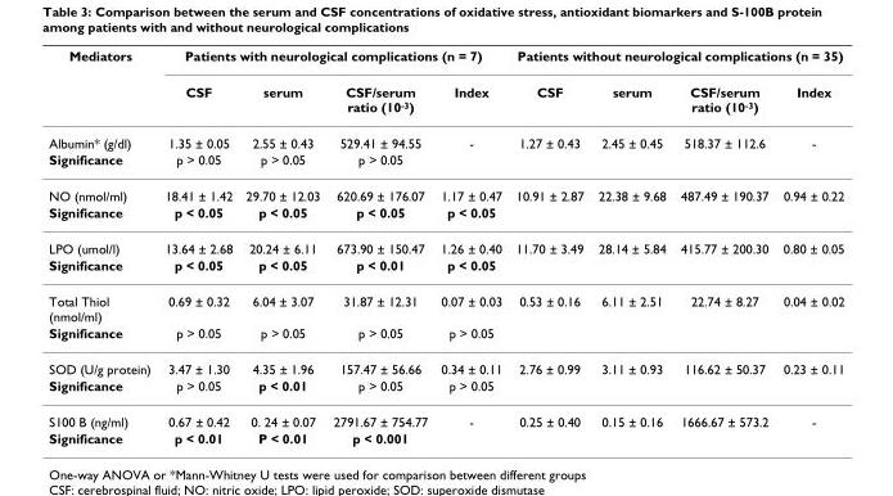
<table><thead><tr><td rowspan="2">Mediators</td><td colspan="4">Patients with neurological complications (n = 7)</td><td colspan="4">Patients without neurological complications (n = 35)</td></tr><tr><td>CSF</td><td>serum</td><td>CSF/serum ratio (10<sup>-3</sup>)</td><td>Index</td><td>CSF</td><td>serum</td><td>CSF/serum ratio (10<sup>-3</sup>)</td><td>Index</td></tr></thead><tbody><tr><td>Albumin* (g/dl)</td><td>1.35 ± 0.05</td><td>2.55 ± 0.43</td><td>529.41 ± 94.55</td><td>-</td><td>1.27 ± 0.43</td><td>2.45 ± 0.45</td><td>518.37 ± 112.6</td><td>-</td></tr><tr><td>Significance</td><td>p &gt; 0.05</td><td>p &gt; 0.05</td><td>p &gt; 0.05</td><td></td><td></td><td></td><td></td><td></td></tr><tr><td>NO (nmol/ml)</td><td>18.41 ± 1.42</td><td>29.70 ± 12.03</td><td>620.69 ± 176.07</td><td>1.17 ± 0.47</td><td>10.91 ± 2.87</td><td>22.38 ± 9.68</td><td>487.49 ± 190.37</td><td>0.94 ± 0.22</td></tr><tr><td>Significance</td><td>p &lt; 0.05</td><td>p &lt; 0.05</td><td>p &lt; 0.05</td><td>p &lt; 0.05</td><td></td><td></td><td></td><td></td></tr><tr><td>LPO (umol/l)</td><td>13.64 ± 2.68</td><td>20.24 ± 6.11</td><td>673.90 ± 150.47</td><td>1.26 ± 0.40</td><td>11.70 ± 3.49</td><td>28.14 ± 5.84</td><td>415.77 ± 200.30</td><td>0.80 ± 0.05</td></tr><tr><td>Significance</td><td>p &lt; 0.05</td><td>p &lt; 0.05</td><td>p &lt; 0.01</td><td>p &lt; 0.05</td><td></td><td></td><td></td><td></td></tr><tr><td>Total Thiol (nmol/ml)</td><td>0.69 ± 0.32</td><td>6.04 ± 3.07</td><td>31.87 ± 12.31</td><td>0.07 ± 0.03</td><td>0.53 ± 0.16</td><td>6.11 ± 2.51</td><td>22.74 ± 8.27</td><td>0.04 ± 0.02</td></tr><tr><td>Significance</td><td>p &gt; 0.05</td><td>p &gt; 0.05</td><td>p &gt; 0.05</td><td>p &gt; 0.05</td><td></td><td></td><td></td><td></td></tr><tr><td>SOD (U/g protein)</td><td>3.47 ± 1.30</td><td>4.35 ± 1.96</td><td>157.47 ± 56.66</td><td>0.34 ± 0.11</td><td>2.76 ± 0.99</td><td>3.11 ± 0.93</td><td>116.62 ± 50.37</td><td>0.23 ± 0.11</td></tr><tr><td>Significance</td><td>p &gt; 0.05</td><td>p &lt; 0.01</td><td>p &gt; 0.05</td><td>p &gt; 0.05</td><td></td><td></td><td></td><td></td></tr><tr><td>S100 B (ng/ml)</td><td>0.67 ± 0.42</td><td>0. 24 ± 0.07</td><td>2791.67 ± 754.77</td><td>-</td><td>0.25 ± 0.40</td><td>0.15 ± 0.16</td><td>1666.67 ± 573.2</td><td>-</td></tr><tr><td>Significance</td><td>p &lt; 0.01</td><td>P &lt; 0.01</td><td>p &lt; 0.001</td><td></td><td></td><td></td><td></td><td></td></tr></tbody></table>